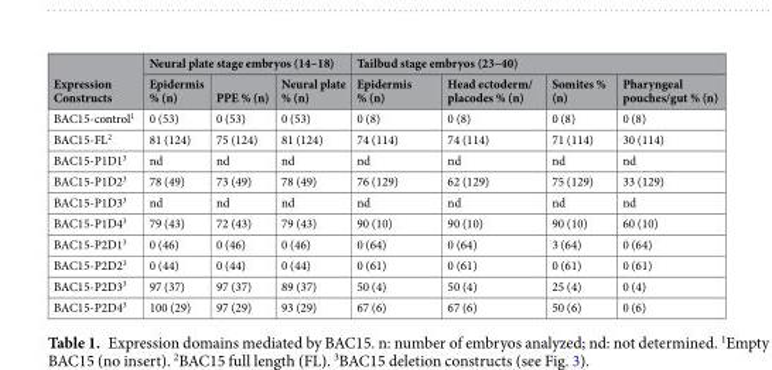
<table><thead><tr><td rowspan="2">Expression Constructs</td><td colspan="3">Neural plate stage embryos (14–18)</td><td colspan="4">Tailbud stage embryos (23–40)</td></tr><tr><td>Epidermis % (n)</td><td>PPE % (n)</td><td>Neural plate % (n)</td><td>Epidermis % (n)</td><td>Head ectoderm/ placodes % (n)</td><td>Somites % (n)</td><td>Pharyngeal pouches/gut % (n)</td></tr></thead><tbody><tr><td>BAC15-control<sup>1</sup></td><td>0 (53)</td><td>0 (53)</td><td>0 (53)</td><td>0 (8)</td><td>0 (8)</td><td>0 (8)</td><td>0 (8)</td></tr><tr><td>BAC15-FL<sup>2</sup></td><td>81 (124)</td><td>75 (124)</td><td>81 (124)</td><td>74 (114)</td><td>74 (114)</td><td>71 (114)</td><td>30 (114)</td></tr><tr><td>BAC15-P1D1<sup>3</sup></td><td>nd</td><td>nd</td><td>nd</td><td>nd</td><td>nd</td><td>nd</td><td>nd</td></tr><tr><td>BAC15-P1D2<sup>3</sup></td><td>78 (49)</td><td>73 (49)</td><td>78 (49)</td><td>76 (129)</td><td>62 (129)</td><td>75 (129)</td><td>33 (129)</td></tr><tr><td>BAC15-P1D3<sup>3</sup></td><td>nd</td><td>nd</td><td>nd</td><td>nd</td><td>nd</td><td>nd</td><td>nd</td></tr><tr><td>BAC15-P1D4<sup>3</sup></td><td>79 (43)</td><td>72 (43)</td><td>79 (43)</td><td>90 (10)</td><td>90 (10)</td><td>90 (10)</td><td>60 (10)</td></tr><tr><td>BAC15-P2D1<sup>3</sup></td><td>0 (46)</td><td>0 (46)</td><td>0 (46)</td><td>0 (64)</td><td>0 (64)</td><td>3 (64)</td><td>0 (64)</td></tr><tr><td>BAC15-P2D2<sup>3</sup></td><td>0 (44)</td><td>0 (44)</td><td>0 (44)</td><td>0 (61)</td><td>0 (61)</td><td>0 (61)</td><td>0 (61)</td></tr><tr><td>BAC15-P2D3<sup>3</sup></td><td>97 (37)</td><td>97 (37)</td><td>89 (37)</td><td>50 (4)</td><td>50 (4)</td><td>25 (4)</td><td>0 (4)</td></tr><tr><td>BAC15-P2D4<sup>3</sup></td><td>100 (29)</td><td>97 (29)</td><td>93 (29)</td><td>67 (6)</td><td>67 (6)</td><td>50 (6)</td><td>0 (6)</td></tr></tbody></table>